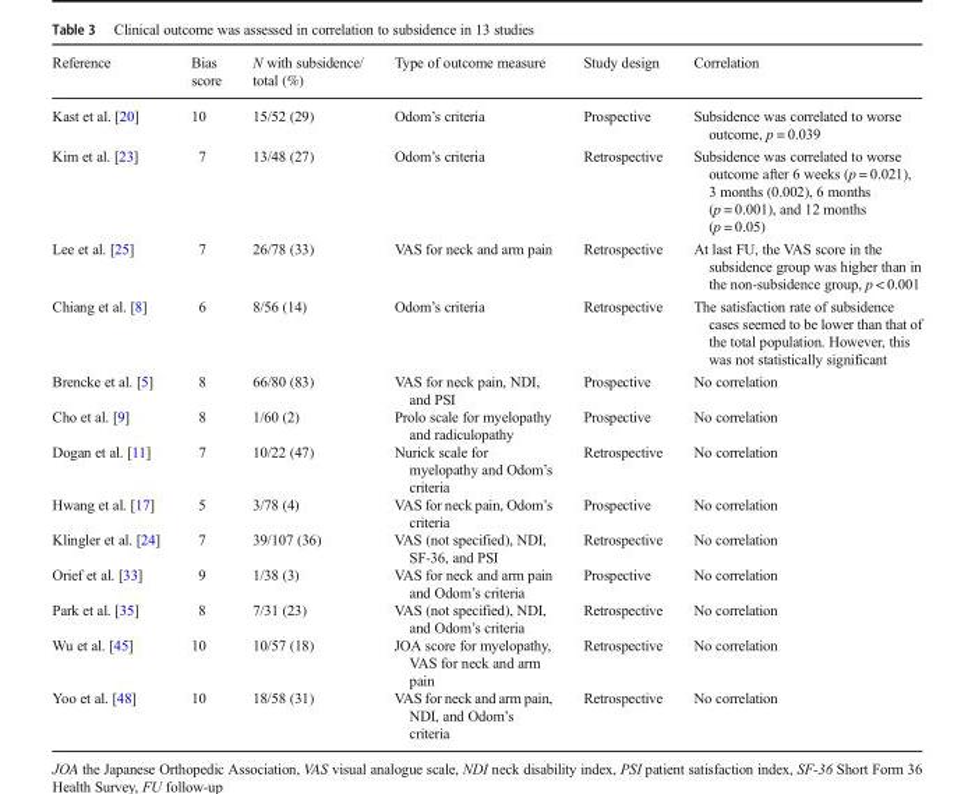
<table><thead><tr><td>Reference</td><td>Bias score</td><td>N with subsidence/ total (%)</td><td>Type of outcome measure</td><td>Study design</td><td>Correlation</td></tr></thead><tbody><tr><td>Kast et al. [20]</td><td>10</td><td>15/52 (29)</td><td>Odom’s criteria</td><td>Prospective</td><td>Subsidence was correlated to worse outcome, p = 0.039</td></tr><tr><td>Kim et al. [23]</td><td>7</td><td>13/48 (27)</td><td>Odom’s criteria</td><td>Retrospective</td><td>Subsidence was correlated to worse outcome after 6 weeks (p = 0.021), 3 months (0.002), 6 months (p = 0.001), and 12 months (p = 0.05)</td></tr><tr><td>Lee et al. [25]</td><td>7</td><td>26/78 (33)</td><td>VAS for neck and arm pain</td><td>Retrospective</td><td>At last FU, the VAS score in the subsidence group was higher than in the non-subsidence group, p &lt; 0.001</td></tr><tr><td>Chiang et al. [8]</td><td>6</td><td>8/56 (14)</td><td>Odom’s criteria</td><td>Retrospective</td><td>The satisfaction rate of subsidence cases seemed to be lower than that of the total population. However, this was not statistically significant</td></tr><tr><td>Brencke et al. [5]</td><td>8</td><td>66/80 (83)</td><td>VAS for neck pain, NDI, and PSI</td><td>Prospective</td><td>No correlation</td></tr><tr><td>Cho et al. [9]</td><td>8</td><td>1/60 (2)</td><td>Prolo scale for myelopathy and radiculopathy</td><td>Prospective</td><td>No correlation</td></tr><tr><td>Dogan et al. [11]</td><td>7</td><td>10/22 (47)</td><td>Nurick scale for myelopathy and Odom’s criteria</td><td>Retrospective</td><td>No correlation</td></tr><tr><td>Hwang et al. [17]</td><td>5</td><td>3/78 (4)</td><td>VAS for neck pain, Odom’s criteria</td><td>Prospective</td><td>No correlation</td></tr><tr><td>Klingler et al. [24]</td><td>7</td><td>39/107 (36)</td><td>VAS (not specified), NDI, SF-36, and PSI</td><td>Retrospective</td><td>No correlation</td></tr><tr><td>Orief et al. [33]</td><td>9</td><td>1/38 (3)</td><td>VAS for neck and arm pain and Odom’s criteria</td><td>Prospective</td><td>No correlation</td></tr><tr><td>Park et al. [35]</td><td>8</td><td>7/31 (23)</td><td>VAS (not specified), NDI, and Odom’s criteria</td><td>Retrospective</td><td>No correlation</td></tr><tr><td>Wu et al. [45]</td><td>10</td><td>10/57 (18)</td><td>JOA score for myelopathy, VAS for neck and arm pain</td><td>Retrospective</td><td>No correlation</td></tr><tr><td>Yoo et al. [48]</td><td>10</td><td>18/58 (31)</td><td>VAS for neck and arm pain, NDI, and Odom’s criteria</td><td>Retrospective</td><td>No correlation</td></tr></tbody></table>